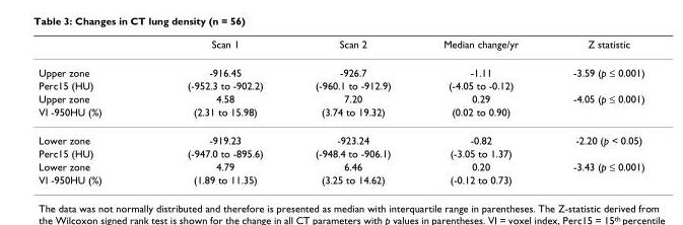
<table><thead><tr><td></td><td>Scan 1</td><td>Scan 2</td><td>Median change/yr</td><td>Z statistic</td></tr></thead><tbody><tr><td>Upper zone</td><td>-916.45</td><td>-926.7</td><td>-1.11</td><td>-3.59 (p ≤ 0.001)</td></tr><tr><td>Perc15 (HU)</td><td>(-952.3 to -902.2)</td><td>(-960.1 to -912.9)</td><td>(-4.05 to -0.12)</td><td></td></tr><tr><td>Upper zone</td><td>4.58</td><td>7.20</td><td>0.29</td><td>-4.05 (p ≤ 0.001)</td></tr><tr><td>VI -950HU (%)</td><td>(2.31 to 15.98)</td><td>(3.74 to 19.32)</td><td>(0.02 to 0.90)</td><td></td></tr><tr><td>Lower zone</td><td>-919.23</td><td>-923.24</td><td>-0.82</td><td>-2.20 (p &lt; 0.05)</td></tr><tr><td>Perc15 (HU)</td><td>(-947.0 to -895.6)</td><td>(-948.4 to -906.1)</td><td>(-3.05 to 1.37)</td><td></td></tr><tr><td>Lower zone</td><td>4.79</td><td>6.46</td><td>0.20</td><td>-3.43 (p ≤ 0.001)</td></tr><tr><td>VI -950HU (%)</td><td>(1.89 to 11.35)</td><td>(3.25 to 14.62)</td><td>(-0.12 to 0.73)</td><td></td></tr></tbody></table>